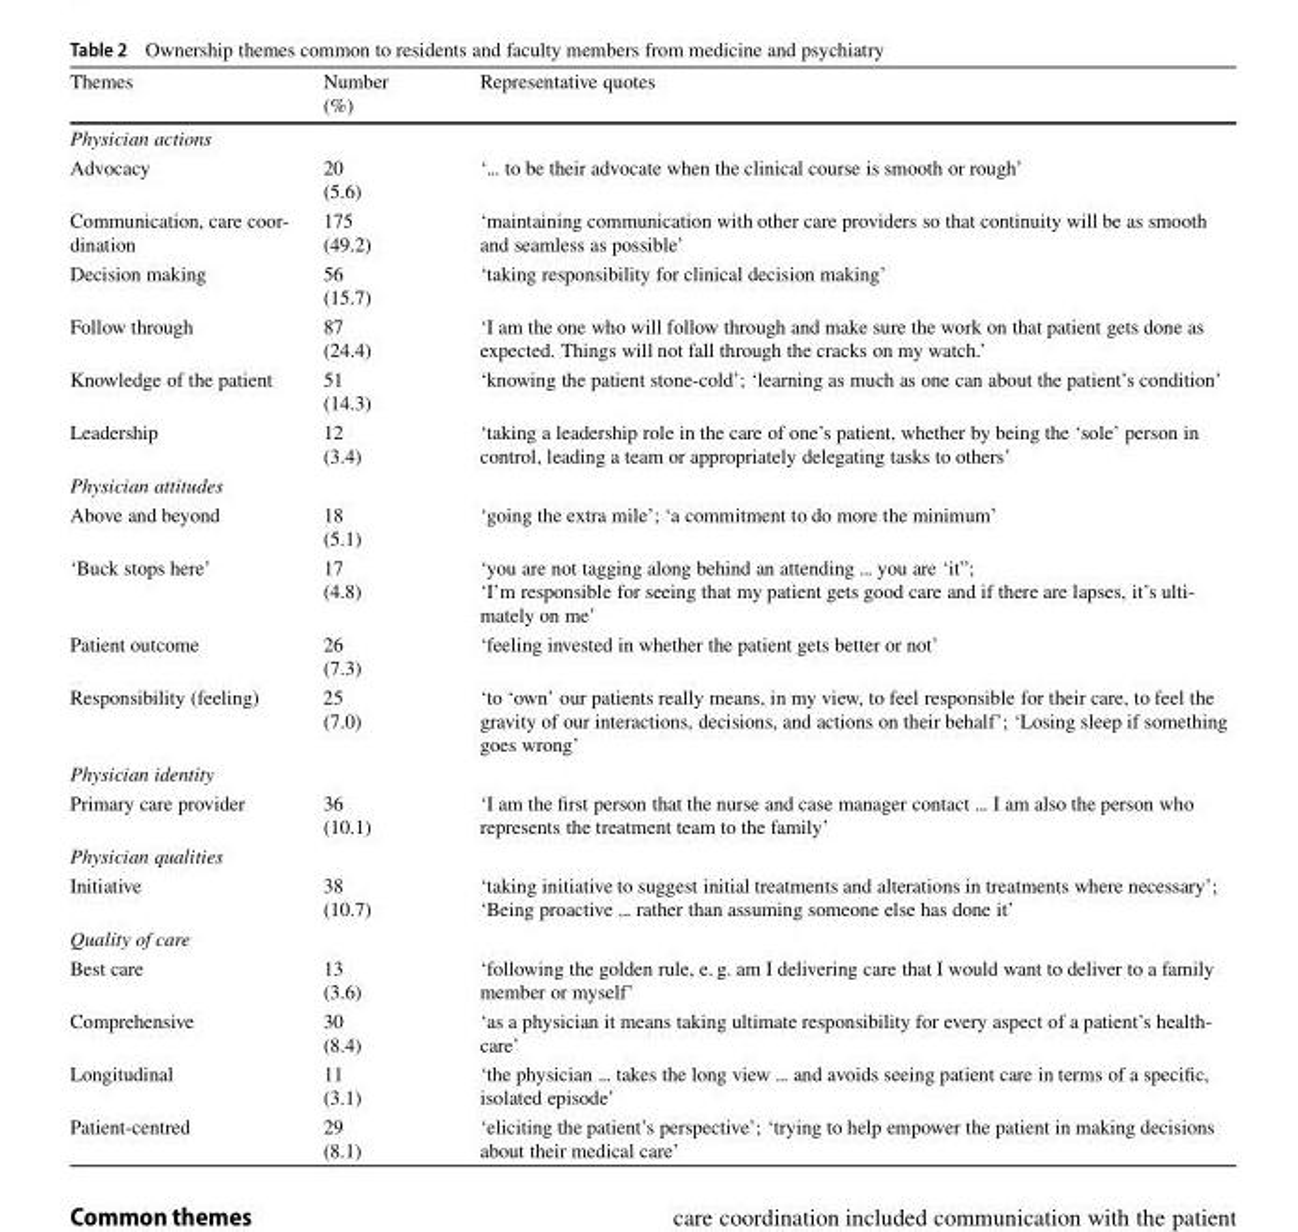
<table><thead><tr><td>Themes</td><td>Number (%)</td><td>Representative quotes</td></tr></thead><tbody><tr><td colspan="3">Physician actions</td></tr><tr><td>Advocacy</td><td>20 (5.6)</td><td>‘... to be their advocate when the clinical course is smooth or rough’</td></tr><tr><td>Communication, care coor- dination</td><td>175 (49.2)</td><td>‘maintaining communication with other care providers so that continuity will be as smooth and seamless as possible’</td></tr><tr><td>Decision making</td><td>56 (15.7)</td><td>‘taking responsibility for clinical decision making’</td></tr><tr><td>Follow through</td><td>87 (24.4)</td><td>‘I am the one who will follow through and make sure the work on that patient gets done as expected. Things will not fall through the cracks on my watch.’</td></tr><tr><td>Knowledge of the patient</td><td>51 (14.3)</td><td>‘knowing the patient stone-cold’; ‘learning as much as one can about the patient’s condition’</td></tr><tr><td>Leadership</td><td>12 (3.4)</td><td>‘taking a leadership role in the care of one’s patient, whether by being the ‘sole’ person in control, leading a team or appropriately delegating tasks to others’</td></tr><tr><td colspan="3">Physician attitudes</td></tr><tr><td>Above and beyond</td><td>18 (5.1)</td><td>‘going the extra mile’; ‘a commitment to do more the minimum’</td></tr><tr><td>‘Buck stops here’</td><td>17 (4.8)</td><td>‘you are not tagging along behind an attending ... you are ‘it”; ‘I’m responsible for seeing that my patient gets good care and if there are lapses, it’s ulti- mately on me’</td></tr><tr><td>Patient outcome</td><td>26 (7.3)</td><td>‘feeling invested in whether the patient gets better or not’</td></tr><tr><td>Responsibility (feeling)</td><td>25 (7.0)</td><td>‘to ‘own’ our patients really means, in my view, to feel responsible for their care, to feel the gravity of our interactions, decisions, and actions on their behalf’; ‘Losing sleep if something goes wrong’</td></tr><tr><td colspan="3">Physician identity</td></tr><tr><td>Primary care provider</td><td>36 (10.1)</td><td>‘I am the first person that the nurse and case manager contact ... I am also the person who represents the treatment team to the family’</td></tr><tr><td colspan="3">Physician qualities</td></tr><tr><td>Initiative</td><td>38 (10.7)</td><td>‘taking initiative to suggest initial treatments and alterations in treatments where necessary’; ‘Being proactive ... rather than assuming someone else has done it’</td></tr><tr><td colspan="3">Quality of care</td></tr><tr><td>Best care</td><td>13 (3.6)</td><td>‘following the golden rule, e. g. am I delivering care that I would want to deliver to a family member or myself’</td></tr><tr><td>Comprehensive</td><td>30 (8.4)</td><td>‘as a physician it means taking ultimate responsibility for every aspect of a patient’s health- care’</td></tr><tr><td>Longitudinal</td><td>11 (3.1)</td><td>‘the physician ... takes the long view ... and avoids seeing patient care in terms of a specific, isolated episode’</td></tr><tr><td>Patient-centred</td><td>29 (8.1)</td><td>‘eliciting the patient’s perspective’; ‘trying to help empower the patient in making decisions about their medical care’</td></tr></tbody></table>